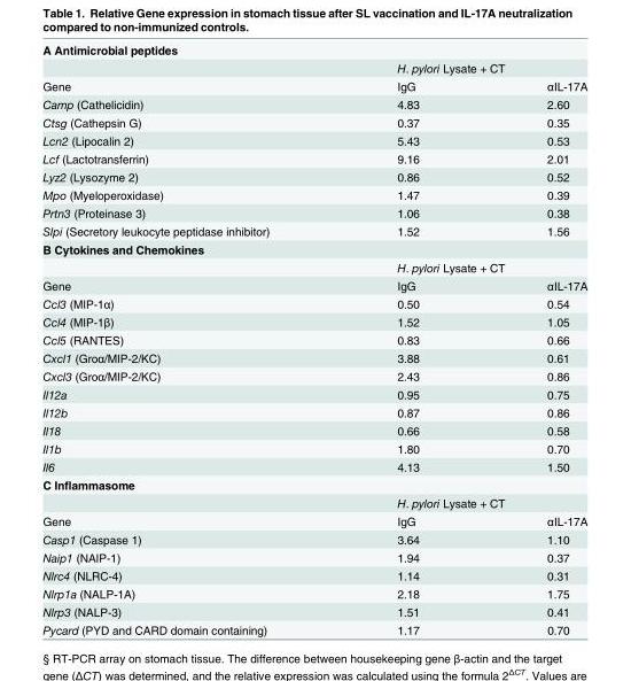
<table><tbody><tr><td colspan="3">A Antimicrobial peptides</td></tr><tr><td></td><td colspan="2">H. pylori Lysate + CT</td></tr><tr><td>Gene</td><td>IgG</td><td>αIL-17A</td></tr><tr><td>Camp (Cathelicidin)</td><td>4.83</td><td>2.60</td></tr><tr><td>Ctsg (Cathepsin G)</td><td>0.37</td><td>0.35</td></tr><tr><td>Lcn2 (Lipocalin 2)</td><td>5.43</td><td>0.53</td></tr><tr><td>Lcf (Lactotransferrin)</td><td>9.16</td><td>2.01</td></tr><tr><td>Lyz2 (Lysozyme 2)</td><td>0.86</td><td>0.52</td></tr><tr><td>Mpo (Myeloperoxidase)</td><td>1.47</td><td>0.39</td></tr><tr><td>Prtn3 (Proteinase 3)</td><td>1.06</td><td>0.38</td></tr><tr><td>Slpi (Secretory leukocyte peptidase inhibitor)</td><td>1.52</td><td>1.56</td></tr><tr><td colspan="3">B Cytokines and Chemokines</td></tr><tr><td></td><td colspan="2">H. pylori Lysate + CT</td></tr><tr><td>Gene</td><td>IgG</td><td>αIL-17A</td></tr><tr><td>Ccl3 (MIP-1α)</td><td>0.50</td><td>0.54</td></tr><tr><td>Ccl4 (MIP-1β)</td><td>1.52</td><td>1.05</td></tr><tr><td>Ccl5 (RANTES)</td><td>0.83</td><td>0.66</td></tr><tr><td>Cxcl1 (Groα/MIP-2/KC)</td><td>3.88</td><td>0.61</td></tr><tr><td>Cxcl3 (Groα/MIP-2/KC)</td><td>2.43</td><td>0.86</td></tr><tr><td>Il12a</td><td>0.95</td><td>0.75</td></tr><tr><td>Il12b</td><td>0.87</td><td>0.86</td></tr><tr><td>Il18</td><td>0.66</td><td>0.58</td></tr><tr><td>Il1b</td><td>1.80</td><td>0.70</td></tr><tr><td>Il6</td><td>4.13</td><td>1.50</td></tr><tr><td colspan="3">C Inflammasome</td></tr><tr><td></td><td colspan="2">H. pylori Lysate + CT</td></tr><tr><td>Gene</td><td>IgG</td><td>αIL-17A</td></tr><tr><td>Casp1 (Caspase 1)</td><td>3.64</td><td>1.10</td></tr><tr><td>Naip1 (NAIP-1)</td><td>1.94</td><td>0.37</td></tr><tr><td>Nlrc4 (NLRC-4)</td><td>1.14</td><td>0.31</td></tr><tr><td>Nlrp1a (NALP-1A)</td><td>2.18</td><td>1.75</td></tr><tr><td>Nlrp3 (NALP-3)</td><td>1.51</td><td>0.41</td></tr><tr><td>Pycard (PYD and CARD domain containing)</td><td>1.17</td><td>0.70</td></tr></tbody></table>